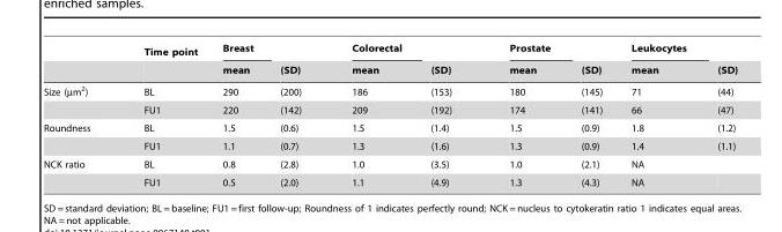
<table><thead><tr><td rowspan="2"></td><td rowspan="2">Time point</td><td rowspan="2">Breast mean</td><td rowspan="2">(SD)</td><td rowspan="2">Colorectal mean</td><td rowspan="2">(SD)</td><td rowspan="2">Prostate mean</td><td rowspan="2">(SD)</td><td rowspan="2">Leukocytes mean</td><td rowspan="2">(SD)</td></tr><tr></tr></thead><tbody><tr><td rowspan="2">Size (µm<sup>2</sup>)</td><td>BL</td><td>290</td><td>(200)</td><td>186</td><td>(153)</td><td>180</td><td>(145)</td><td>71</td><td>(44)</td></tr><tr><td>FU1</td><td>220</td><td>(142)</td><td>209</td><td>(192)</td><td>174</td><td>(141)</td><td>66</td><td>(47)</td></tr><tr><td rowspan="2">Roundness</td><td>BL</td><td>1.5</td><td>(0.6)</td><td>1.5</td><td>(1.4)</td><td>1.5</td><td>(0.9)</td><td>1.8</td><td>(1.2)</td></tr><tr><td>FU1</td><td>1.1</td><td>(0.7)</td><td>1.3</td><td>(1.6)</td><td>1.3</td><td>(0.9)</td><td>1.4</td><td>(1.1)</td></tr><tr><td rowspan="2">NCK ratio</td><td>BL</td><td>0.8</td><td>(2.8)</td><td>1.0</td><td>(3.5)</td><td>1.0</td><td>(2.1)</td><td>NA</td><td></td></tr><tr><td>FU1</td><td>0.5</td><td>(2.0)</td><td>1.1</td><td>(4.9)</td><td>1.3</td><td>(4.3)</td><td>NA</td><td></td></tr></tbody></table>